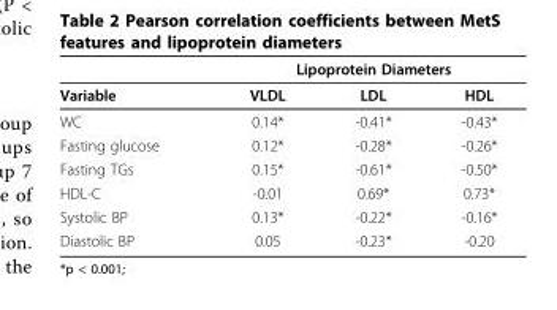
<table><thead><tr><td rowspan="2">Variable</td><td colspan="3">Lipoprotein Diameters</td></tr><tr><td>VLDL</td><td>LDL</td><td>HDL</td></tr></thead><tbody><tr><td>WC</td><td>0.14*</td><td>-0.41*</td><td>-0.43*</td></tr><tr><td>Fasting glucose</td><td>0.12*</td><td>-0.28*</td><td>-0.26*</td></tr><tr><td>Fasting TGs</td><td>0.15*</td><td>-0.61*</td><td>-0.50*</td></tr><tr><td>HDL-C</td><td>-0.01</td><td>0.69*</td><td>0.73*</td></tr><tr><td>Systolic BP</td><td>0.13*</td><td>-0.22*</td><td>-0.16*</td></tr><tr><td>Diastolic BP</td><td>0.05</td><td>-0.23*</td><td>-0.20</td></tr></tbody></table>